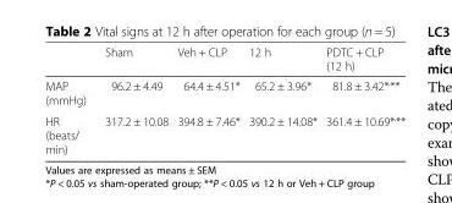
<table><thead><tr><td></td><td>Sham</td><td>Veh + CLP</td><td>12 h</td><td>PDTC + CLP (12 h)</td></tr></thead><tbody><tr><td>MAP (mmHg)</td><td>96.2 ± 4.49</td><td>64.4 ± 4.51*</td><td>65.2 ± 3.96*</td><td>81.8 ± 3.42*,**</td></tr><tr><td>HR (beats/ min)</td><td>317.2 ± 10.08</td><td>394.8 ± 7.46*</td><td>390.2 ± 14.08*</td><td>361.4 ± 10.69*,**</td></tr></tbody></table>